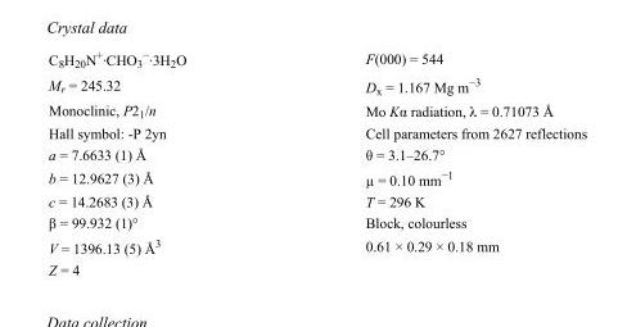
<table><tbody><tr><td>C<sub>8</sub>H<sub>20</sub>N<sup>+</sup>·CHO<sub>3</sub> <sup>−</sup>·3H<sub>2</sub>O</td><td>F(000) = 544</td></tr><tr><td>M<sub>r</sub> = 245.32</td><td>D<sub>x</sub> = 1.167 Mg m<sup>−3</sup></td></tr><tr><td>Monoclinic, P2<sub>1</sub>/n</td><td>Mo Kα radiation, λ = 0.71073 Å</td></tr><tr><td>Hall symbol: -P 2yn</td><td>Cell parameters from 2627 reflections</td></tr><tr><td>a = 7.6633 (1) Å</td><td>θ = 3.1–26.7°</td></tr><tr><td>b = 12.9627 (3) Å</td><td>µ = 0.10 mm<sup>−1</sup></td></tr><tr><td>c = 14.2683 (3) Å</td><td>T = 296 K</td></tr><tr><td>β = 99.932 (1)°</td><td>Block, colourless</td></tr><tr><td>V = 1396.13 (5) Å<sup>3</sup></td><td>0.61 × 0.29 × 0.18 mm</td></tr><tr><td>Z = 4</td><td></td></tr></tbody></table>